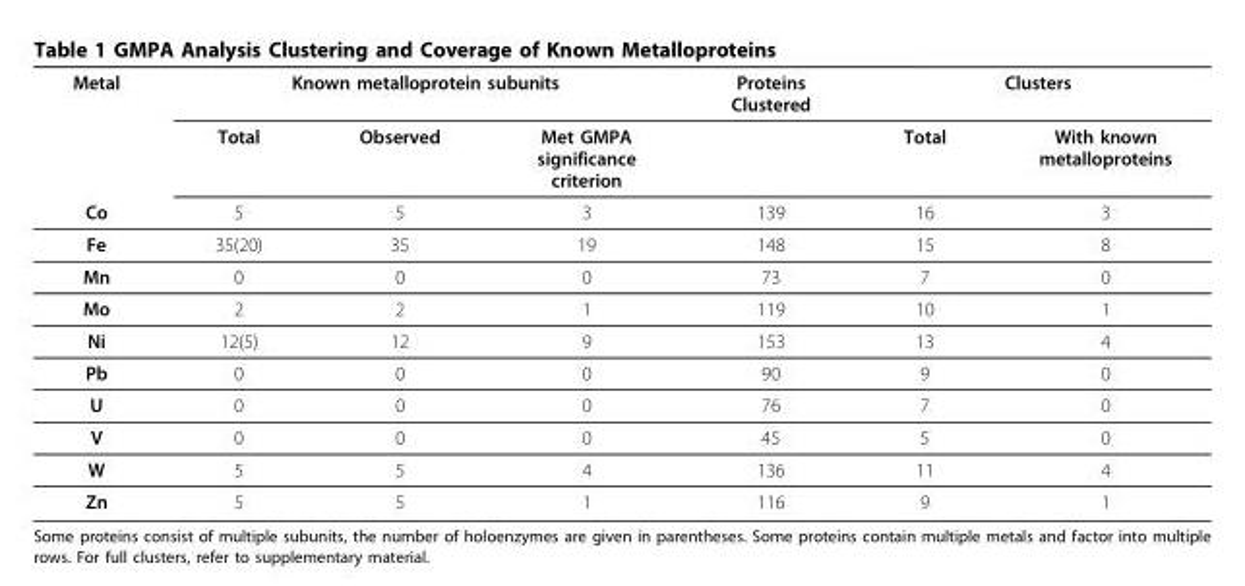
<table><thead><tr><td rowspan="3">Metal Co</td><td colspan="3">Known metalloprotein subunits</td><td rowspan="3">Proteins Clustered 139</td><td colspan="2">Clusters</td></tr><tr><td rowspan="2">Total 5</td><td rowspan="2">Observed 5</td><td rowspan="2">Met GMPA significance criterion 3</td><td rowspan="2">Total 16</td><td rowspan="2">With known metalloproteins 3</td></tr><tr></tr></thead><tbody><tr><td>Fe</td><td>35(20)</td><td>35</td><td>19</td><td>148</td><td>15</td><td>8</td></tr><tr><td>Mn</td><td>0</td><td>0</td><td>0</td><td>73</td><td>7</td><td>0</td></tr><tr><td>Mo</td><td>2</td><td>2</td><td>1</td><td>119</td><td>10</td><td>1</td></tr><tr><td>Ni</td><td>12(5)</td><td>12</td><td>9</td><td>153</td><td>13</td><td>4</td></tr><tr><td>Pb</td><td>0</td><td>0</td><td>0</td><td>90</td><td>9</td><td>0</td></tr><tr><td>U</td><td>0</td><td>0</td><td>0</td><td>76</td><td>7</td><td>0</td></tr><tr><td>V</td><td>0</td><td>0</td><td>0</td><td>45</td><td>5</td><td>0</td></tr><tr><td>W</td><td>5</td><td>5</td><td>4</td><td>136</td><td>11</td><td>4</td></tr><tr><td>Zn</td><td>5</td><td>5</td><td>1</td><td>116</td><td>9</td><td>1</td></tr></tbody></table>